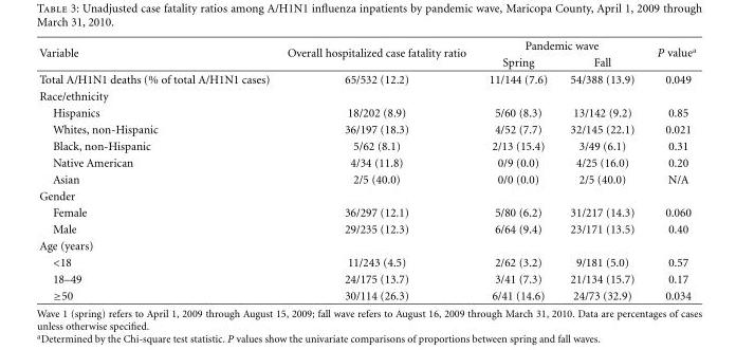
<table><thead><tr><td rowspan="2">Variable</td><td rowspan="2">Overall hospitalized case fatality ratio</td><td colspan="2">Pandemic wave</td><td rowspan="2">P value<sup>a</sup></td></tr><tr><td>Spring</td><td>Fall</td></tr></thead><tbody><tr><td>Total A/H1N1 deaths (% of total A/H1N1 cases)</td><td>65/532 (12.2)</td><td>11/144 (7.6)</td><td>54/388 (13.9)</td><td>0.049</td></tr><tr><td colspan="5">Race/ethnicity</td></tr><tr><td>Hispanics</td><td>18/202 (8.9)</td><td>5/60 (8.3)</td><td>13/142 (9.2)</td><td>0.85</td></tr><tr><td>Whites, non-Hispanic</td><td>36/197 (18.3)</td><td>4/52 (7.7)</td><td>32/145 (22.1)</td><td>0.021</td></tr><tr><td>Black, non-Hispanic</td><td>5/62 (8.1)</td><td>2/13 (15.4)</td><td>3/49 (6.1)</td><td>0.31</td></tr><tr><td>Native American</td><td>4/34 (11.8)</td><td>0/9 (0.0)</td><td>4/25 (16.0)</td><td>0.20</td></tr><tr><td>Asian</td><td>2/5 (40.0)</td><td>0/0 (0.0)</td><td>2/5 (40.0)</td><td>N/A</td></tr><tr><td colspan="5">Gender</td></tr><tr><td>Female</td><td>36/297 (12.1)</td><td>5/80 (6.2)</td><td>31/217 (14.3)</td><td>0.060</td></tr><tr><td>Male</td><td>29/235 (12.3)</td><td>6/64 (9.4)</td><td>23/171 (13.5)</td><td>0.40</td></tr><tr><td colspan="5">Age (years)</td></tr><tr><td>&lt;18</td><td>11/243 (4.5)</td><td>2/62 (3.2)</td><td>9/181 (5.0)</td><td>0.57</td></tr><tr><td>18–49</td><td>24/175 (13.7)</td><td>3/41 (7.3)</td><td>21/134 (15.7)</td><td>0.17</td></tr><tr><td>≥50</td><td>30/114 (26.3)</td><td>6/41 (14.6)</td><td>24/73 (32.9)</td><td>0.034</td></tr></tbody></table>